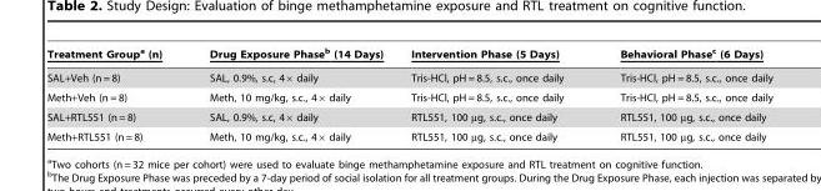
<table><thead><tr><td>Treatment Groupa (n)</td><td>Drug Exposure Phaseb (14 Days)</td><td>Intervention Phase (5 Days)</td><td>Behavioral Phasec (6 Days)</td></tr></thead><tbody><tr><td>SAL+Veh (n = 8)</td><td>SAL, 0.9%, s.c, 4× daily</td><td>Tris-HCl, pH = 8.5, s.c., once daily</td><td>Tris-HCl, pH = 8.5, s.c., once daily</td></tr><tr><td>Meth+Veh (n = 8)</td><td>Meth, 10 mg/kg, s.c., 4× daily</td><td>Tris-HCl, pH = 8.5, s.c., once daily</td><td>Tris-HCl, pH = 8.5, s.c., once daily</td></tr><tr><td>SAL+RTL551 (n = 8)</td><td>SAL, 0.9%, s.c, 4× daily</td><td>RTL551, 100 µg, s.c., once daily</td><td>RTL551, 100 µg, s.c., once daily</td></tr><tr><td>Meth+RTL551 (n = 8)</td><td>Meth, 10 mg/kg, s.c., 4× daily</td><td>RTL551, 100 µg, s.c., once daily</td><td>RTL551, 100 µg, s.c., once daily</td></tr></tbody></table>